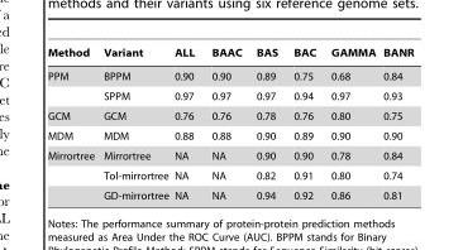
<table><thead><tr><td>Method</td><td>Variant</td><td>ALL</td><td>BAAC</td><td>BAS</td><td>BAC</td><td>GAMMA</td><td>BANR</td></tr></thead><tbody><tr><td rowspan="2">PPM</td><td>BPPM</td><td>0.90</td><td>0.90</td><td>0.89</td><td>0.75</td><td>0.68</td><td>0.84</td></tr><tr><td>SPPM</td><td>0.97</td><td>0.97</td><td>0.97</td><td>0.94</td><td>0.97</td><td>0.93</td></tr><tr><td>GCM</td><td>GCM</td><td>0.76</td><td>0.76</td><td>0.78</td><td>0.76</td><td>0.80</td><td>0.75</td></tr><tr><td>MDM</td><td>MDM</td><td>0.88</td><td>0.88</td><td>0.90</td><td>0.89</td><td>0.90</td><td>0.90</td></tr><tr><td rowspan="3">Mirrortree</td><td>Mirrortree</td><td>NA</td><td>NA</td><td>0.90</td><td>0.90</td><td>0.78</td><td>0.84</td></tr><tr><td>Tol-mirrortree</td><td>NA</td><td>NA</td><td>0.82</td><td>0.91</td><td>0.80</td><td>0.74</td></tr><tr><td>GD-mirrortree</td><td>NA</td><td>NA</td><td>0.94</td><td>0.92</td><td>0.86</td><td>0.81</td></tr></tbody></table>